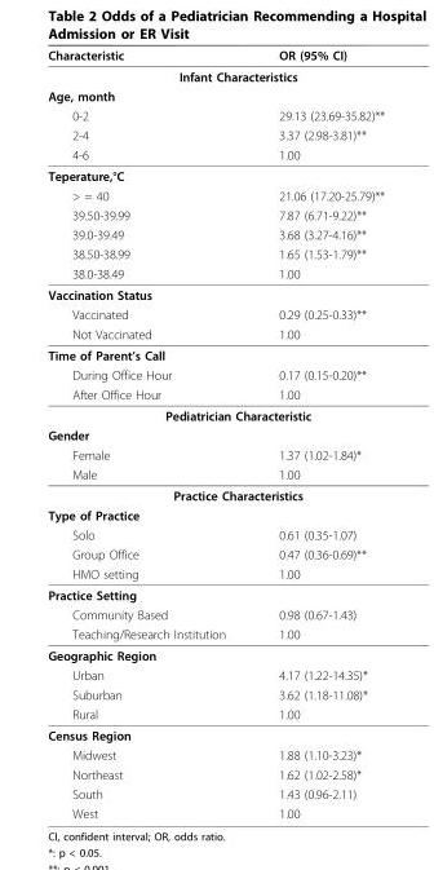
<table><thead><tr><td>Characteristic</td><td>OR (95% CI)</td></tr></thead><tbody><tr><td colspan="2">Infant Characteristics</td></tr><tr><td colspan="2">Age, month</td></tr><tr><td>0-2</td><td>29.13 (23.69-35.82)**</td></tr><tr><td>2-4</td><td>3.37 (2.98-3.81)**</td></tr><tr><td>4-6</td><td>1.00</td></tr><tr><td colspan="2">Teperature,°C</td></tr><tr><td>&gt; = 40</td><td>21.06 (17.20-25.79)**</td></tr><tr><td>39.50-39.99</td><td>7.87 (6.71-9.22)**</td></tr><tr><td>39.0-39.49</td><td>3.68 (3.27-4.16)**</td></tr><tr><td>38.50-38.99</td><td>1.65 (1.53-1.79)**</td></tr><tr><td>38.0-38.49</td><td>1.00</td></tr><tr><td colspan="2">Vaccination Status</td></tr><tr><td>Vaccinated</td><td>0.29 (0.25-0.33)**</td></tr><tr><td>Not Vaccinated</td><td>1.00</td></tr><tr><td colspan="2">Time of Parent’s Call</td></tr><tr><td>During Office Hour</td><td>0.17 (0.15-0.20)**</td></tr><tr><td>After Office Hour</td><td>1.00</td></tr><tr><td colspan="2">Pediatrician Characteristic</td></tr><tr><td colspan="2">Gender</td></tr><tr><td>Female</td><td>1.37 (1.02-1.84)*</td></tr><tr><td>Male</td><td>1.00</td></tr><tr><td colspan="2">Practice Characteristics</td></tr><tr><td colspan="2">Type of Practice</td></tr><tr><td>Solo</td><td>0.61 (0.35-1.07)</td></tr><tr><td>Group Office</td><td>0.47 (0.36-0.69)**</td></tr><tr><td>HMO setting</td><td>1.00</td></tr><tr><td colspan="2">Practice Setting</td></tr><tr><td>Community Based</td><td>0.98 (0.67-1.43)</td></tr><tr><td>Teaching/Research Institution</td><td>1.00</td></tr><tr><td colspan="2">Geographic Region</td></tr><tr><td>Urban</td><td>4.17 (1.22-14.35)*</td></tr><tr><td>Suburban</td><td>3.62 (1.18-11.08)*</td></tr><tr><td>Rural</td><td>1.00</td></tr><tr><td colspan="2">Census Region</td></tr><tr><td>Midwest</td><td>1.88 (1.10-3.23)*</td></tr><tr><td>Northeast</td><td>1.62 (1.02-2.58)*</td></tr><tr><td>South</td><td>1.43 (0.96-2.11)</td></tr><tr><td>West</td><td>1.00</td></tr></tbody></table>